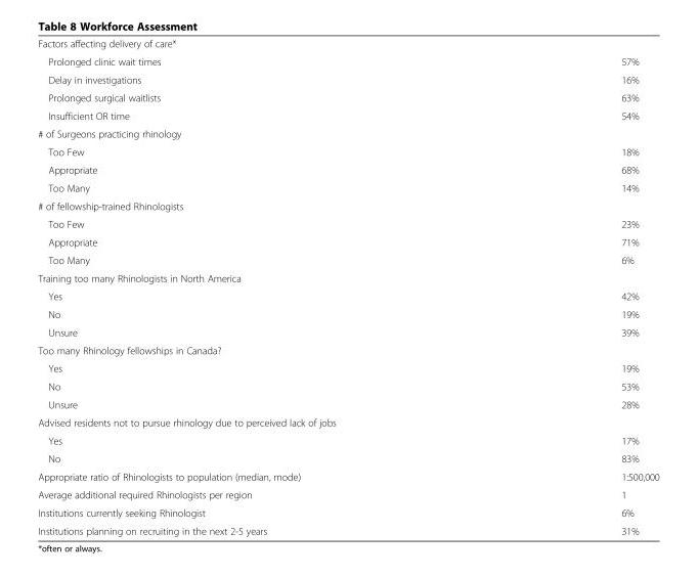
<table><tbody><tr><td colspan="2">Factors affecting delivery of care*</td></tr><tr><td>Prolonged clinic wait times</td><td>57%</td></tr><tr><td>Delay in investigations</td><td>16%</td></tr><tr><td>Prolonged surgical waitlists</td><td>63%</td></tr><tr><td>Insufficient OR time</td><td>54%</td></tr><tr><td colspan="2"># of Surgeons practicing rhinology</td></tr><tr><td>Too Few</td><td>18%</td></tr><tr><td>Appropriate</td><td>68%</td></tr><tr><td>Too Many</td><td>14%</td></tr><tr><td colspan="2"># of fellowship-trained Rhinologists</td></tr><tr><td>Too Few</td><td>23%</td></tr><tr><td>Appropriate</td><td>71%</td></tr><tr><td>Too Many</td><td>6%</td></tr><tr><td colspan="2">Training too many Rhinologists in North America</td></tr><tr><td>Yes</td><td>42%</td></tr><tr><td>No</td><td>19%</td></tr><tr><td>Unsure</td><td>39%</td></tr><tr><td colspan="2">Too many Rhinology fellowships in Canada?</td></tr><tr><td>Yes</td><td>19%</td></tr><tr><td>No</td><td>53%</td></tr><tr><td>Unsure</td><td>28%</td></tr><tr><td colspan="2">Advised residents not to pursue rhinology due to perceived lack of jobs</td></tr><tr><td>Yes</td><td>17%</td></tr><tr><td>No</td><td>83%</td></tr><tr><td>Appropriate ratio of Rhinologists to population (median, mode)</td><td>1:500,000</td></tr><tr><td>Average additional required Rhinologists per region</td><td>1</td></tr><tr><td>Institutions currently seeking Rhinologist</td><td>6%</td></tr><tr><td>Institutions planning on recruiting in the next 2-5 years</td><td>31%</td></tr></tbody></table>